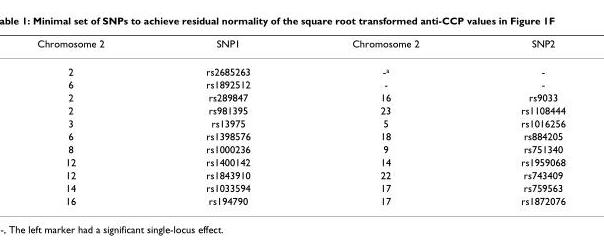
<table><thead><tr><td>Chromosome 2</td><td>SNP1</td><td>Chromosome 2</td><td>SNP2</td></tr></thead><tbody><tr><td>2</td><td>rs2685263</td><td>-<sup>a</sup></td><td>-</td></tr><tr><td>6</td><td>rs1892512</td><td>-</td><td>-</td></tr><tr><td>2</td><td>rs289847</td><td>16</td><td>rs9033</td></tr><tr><td>2</td><td>rs981395</td><td>23</td><td>rs1108444</td></tr><tr><td>3</td><td>rs13975</td><td>5</td><td>rs1016256</td></tr><tr><td>6</td><td>rs1398576</td><td>18</td><td>rs884205</td></tr><tr><td>8</td><td>rs1000236</td><td>9</td><td>rs751340</td></tr><tr><td>12</td><td>rs1400142</td><td>14</td><td>rs1959068</td></tr><tr><td>12</td><td>rs1843910</td><td>22</td><td>rs743409</td></tr><tr><td>14</td><td>rs1033594</td><td>17</td><td>rs759563</td></tr><tr><td>16</td><td>rs194790</td><td>17</td><td>rs1872076</td></tr></tbody></table>